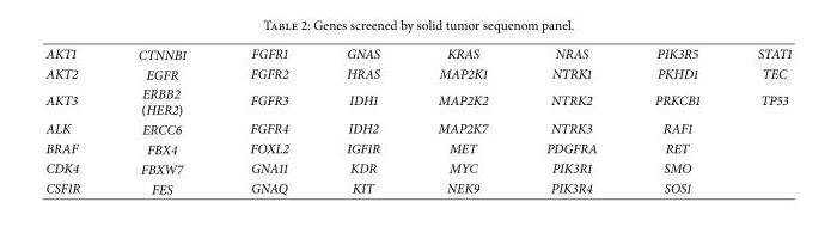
<table><tbody><tr><td>AKT1</td><td>CTNNB1</td><td>FGFR1</td><td>GNAS</td><td>KRAS</td><td>NRAS</td><td>PIK3R5</td><td>STAT1</td></tr><tr><td>AKT2</td><td>EGFR</td><td>FGFR2</td><td>HRAS</td><td>MAP2K1</td><td>NTRK1</td><td>PKHD1</td><td>TEC</td></tr><tr><td>AKT3</td><td>ERBB2 (HER2)</td><td>FGFR3</td><td>IDH1</td><td>MAP2K2</td><td>NTRK2</td><td>PRKCB1</td><td>TP53</td></tr><tr><td>ALK</td><td>ERCC6</td><td>FGFR4</td><td>IDH2</td><td>MAP2K7</td><td>NTRK3</td><td>RAF1</td><td></td></tr><tr><td>BRAF</td><td>FBX4</td><td>FOXL2</td><td>IGF1R</td><td>MET</td><td>PDGFRA</td><td>RET</td><td></td></tr><tr><td>CDK4</td><td>FBXW7</td><td>GNA11</td><td>KDR</td><td>MYC</td><td>PIK3R1</td><td>SMO</td><td></td></tr><tr><td>CSF1R</td><td>FES</td><td>GNAQ</td><td>KIT</td><td>NEK9</td><td>PIK3R4</td><td>SOS1</td><td></td></tr></tbody></table>